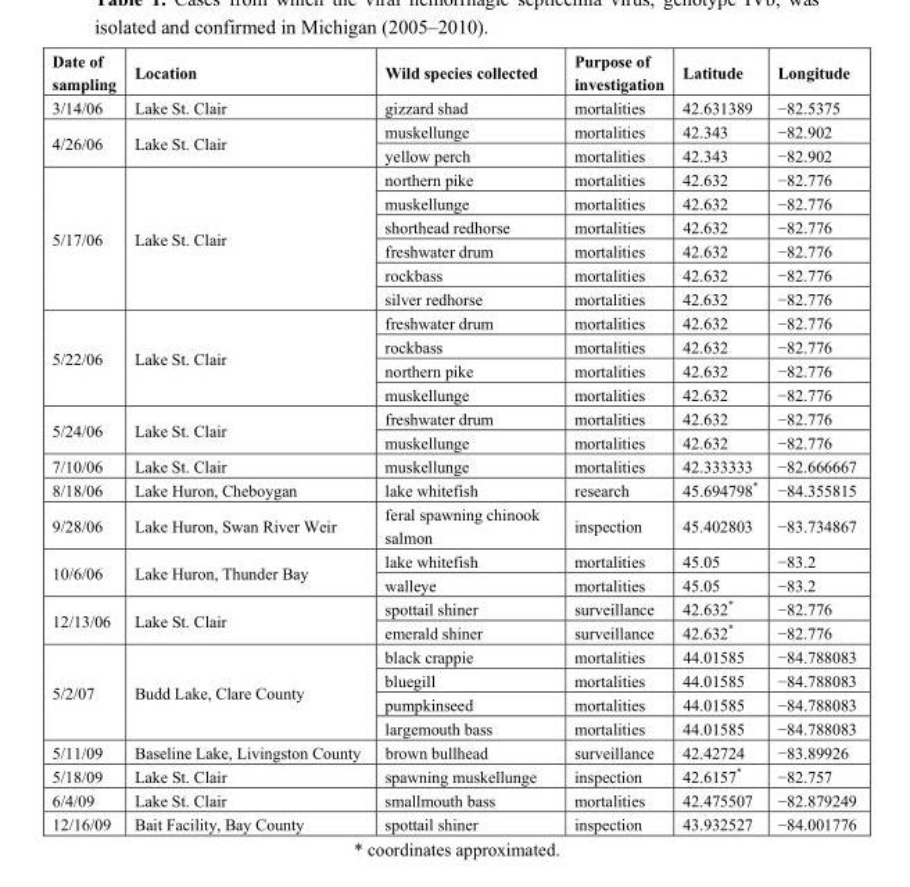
<table><thead><tr><td>Date of sampling</td><td>Location</td><td>Wild species collected</td><td>Purpose of investigation</td><td>Latitude</td><td>Longitude</td></tr></thead><tbody><tr><td>3/14/06</td><td>Lake St. Clair</td><td>gizzard shad</td><td>mortalities</td><td>42.631389</td><td>−82.5375</td></tr><tr><td rowspan="2">4/26/06</td><td rowspan="2">Lake St. Clair</td><td>muskellunge</td><td>mortalities</td><td>42.343</td><td>−82.902</td></tr><tr><td>yellow perch</td><td>mortalities</td><td>42.343</td><td>−82.902</td></tr><tr><td rowspan="6">5/17/06</td><td rowspan="6">Lake St. Clair</td><td>northern pike</td><td>mortalities</td><td>42.632</td><td>−82.776</td></tr><tr><td>muskellunge</td><td>mortalities</td><td>42.632</td><td>−82.776</td></tr><tr><td>shorthead redhorse</td><td>mortalities</td><td>42.632</td><td>−82.776</td></tr><tr><td>freshwater drum</td><td>mortalities</td><td>42.632</td><td>−82.776</td></tr><tr><td>rockbass</td><td>mortalities</td><td>42.632</td><td>−82.776</td></tr><tr><td>silver redhorse</td><td>mortalities</td><td>42.632</td><td>−82.776</td></tr><tr><td rowspan="4">5/22/06</td><td rowspan="4">Lake St. Clair</td><td>freshwater drum</td><td>mortalities</td><td>42.632</td><td>−82.776</td></tr><tr><td>rockbass</td><td>mortalities</td><td>42.632</td><td>−82.776</td></tr><tr><td>northern pike</td><td>mortalities</td><td>42.632</td><td>−82.776</td></tr><tr><td>muskellunge</td><td>mortalities</td><td>42.632</td><td>−82.776</td></tr><tr><td rowspan="2">5/24/06</td><td rowspan="2">Lake St. Clair</td><td>freshwater drum</td><td>mortalities</td><td>42.632</td><td>−82.776</td></tr><tr><td>muskellunge</td><td>mortalities</td><td>42.632</td><td>−82.776</td></tr><tr><td>7/10/06</td><td>Lake St. Clair</td><td>muskellunge</td><td>mortalities</td><td>42.333333</td><td>−82.666667</td></tr><tr><td>8/18/06</td><td>Lake Huron, Cheboygan</td><td>lake whitefish</td><td>research</td><td>45.694798*</td><td>−84.355815</td></tr><tr><td>9/28/06</td><td>Lake Huron, Swan River Weir</td><td>feral spawning chinook salmon</td><td>inspection</td><td>45.402803</td><td>−83.734867</td></tr><tr><td rowspan="2">10/6/06</td><td rowspan="2">Lake Huron, Thunder Bay</td><td>lake whitefish</td><td>mortalities</td><td>45.05</td><td>−83.2</td></tr><tr><td>walleye</td><td>mortalities</td><td>45.05</td><td>−83.2</td></tr><tr><td rowspan="2">12/13/06</td><td rowspan="2">Lake St. Clair</td><td>spottail shiner</td><td>surveillance</td><td>42.632*</td><td>−82.776</td></tr><tr><td>emerald shiner</td><td>surveillance</td><td>42.632*</td><td>−82.776</td></tr><tr><td rowspan="4">5/2/07</td><td rowspan="4">Budd Lake, Clare County</td><td>black crappie</td><td>mortalities</td><td>44.01585</td><td>−84.788083</td></tr><tr><td>bluegill</td><td>mortalities</td><td>44.01585</td><td>−84.788083</td></tr><tr><td>pumpkinseed</td><td>mortalities</td><td>44.01585</td><td>−84.788083</td></tr><tr><td>largemouth bass</td><td>mortalities</td><td>44.01585</td><td>−84.788083</td></tr><tr><td>5/11/09</td><td>Baseline Lake, Livingston County</td><td>brown bullhead</td><td>surveillance</td><td>42.42724</td><td>−83.89926</td></tr><tr><td>5/18/09</td><td>Lake St. Clair</td><td>spawning muskellunge</td><td>inspection</td><td>42.6157*</td><td>−82.757</td></tr><tr><td>6/4/09</td><td>Lake St. Clair</td><td>smallmouth bass</td><td>mortalities</td><td>42.475507</td><td>−82.879249</td></tr><tr><td>12/16/09</td><td>Bait Facility, Bay County</td><td>spottail shiner</td><td>inspection</td><td>43.932527</td><td>−84.001776</td></tr></tbody></table>